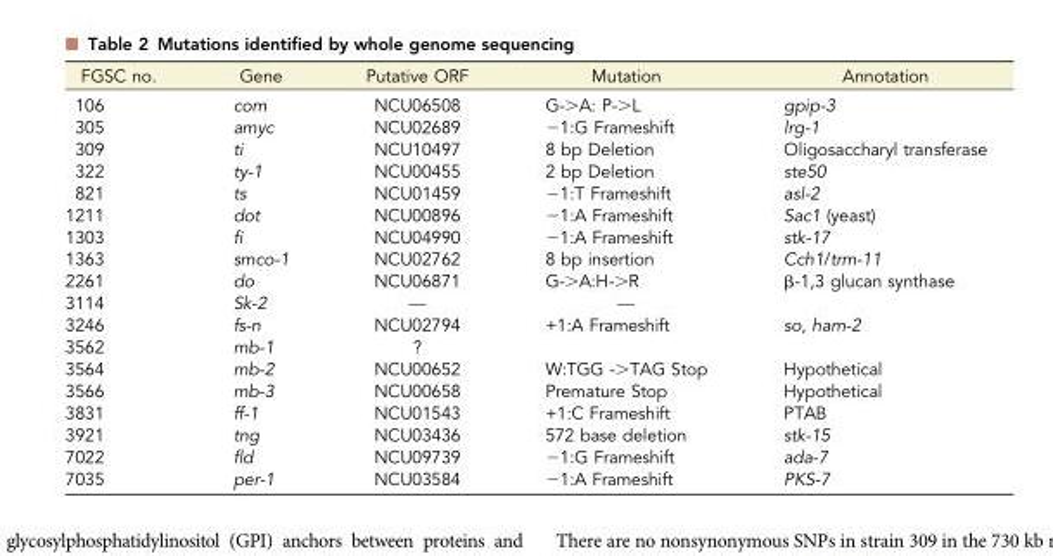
<table><thead><tr><td>FGSC no.</td><td>Gene</td><td>Putative ORF</td><td>Mutation</td><td>Annotation</td></tr></thead><tbody><tr><td>106</td><td>com</td><td>NCU06508</td><td>G-&gt;A: P-&gt;L</td><td>gpip-3</td></tr><tr><td>305</td><td>amyc</td><td>NCU02689</td><td>−1:G Frameshift</td><td>lrg-1</td></tr><tr><td>309</td><td>ti</td><td>NCU10497</td><td>8 bp Deletion</td><td>Oligosaccharyl transferase</td></tr><tr><td>322</td><td>ty-1</td><td>NCU00455</td><td>2 bp Deletion</td><td>ste50</td></tr><tr><td>821</td><td>ts</td><td>NCU01459</td><td>−1:T Frameshift</td><td>asl-2</td></tr><tr><td>1211</td><td>dot</td><td>NCU00896</td><td>−1:A Frameshift</td><td>Sac1 (yeast)</td></tr><tr><td>1303</td><td>fi</td><td>NCU04990</td><td>−1:A Frameshift</td><td>stk-17</td></tr><tr><td>1363</td><td>smco-1</td><td>NCU02762</td><td>8 bp insertion</td><td>Cch1/trm-11</td></tr><tr><td>2261</td><td>do</td><td>NCU06871</td><td>G-&gt;A:H-&gt;R</td><td>β-1,3 glucan synthase</td></tr><tr><td>3114</td><td>Sk-2</td><td>—</td><td>—</td><td></td></tr><tr><td>3246</td><td>fs-n</td><td>NCU02794</td><td>+1:A Frameshift</td><td>so, ham-2</td></tr><tr><td>3562</td><td>mb-1</td><td>?</td><td></td><td></td></tr><tr><td>3564</td><td>mb-2</td><td>NCU00652</td><td>W:TGG -&gt;TAG Stop</td><td>Hypothetical</td></tr><tr><td>3566</td><td>mb-3</td><td>NCU00658</td><td>Premature Stop</td><td>Hypothetical</td></tr><tr><td>3831</td><td>ff-1</td><td>NCU01543</td><td>+1:C Frameshift</td><td>PTAB</td></tr><tr><td>3921</td><td>tng</td><td>NCU03436</td><td>572 base deletion</td><td>stk-15</td></tr><tr><td>7022</td><td>fld</td><td>NCU09739</td><td>−1:G Frameshift</td><td>ada-7</td></tr><tr><td>7035</td><td>per-1</td><td>NCU03584</td><td>−1:A Frameshift</td><td>PKS-7</td></tr></tbody></table>